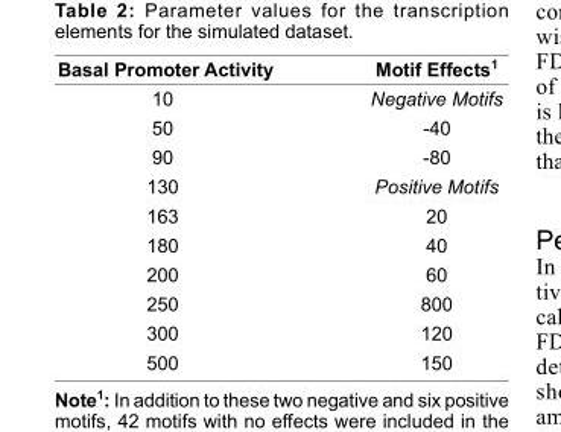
<table><thead><tr><td>Basal Promoter Activity</td><td>Motif Effects<sup>1</sup></td></tr></thead><tbody><tr><td>10</td><td>Negative Motifs</td></tr><tr><td>50</td><td>-40</td></tr><tr><td>90</td><td>-80</td></tr><tr><td>130</td><td>Positive Motifs</td></tr><tr><td>163</td><td>20</td></tr><tr><td>180</td><td>40</td></tr><tr><td>200</td><td>60</td></tr><tr><td>250</td><td>800</td></tr><tr><td>300</td><td>120</td></tr><tr><td>500</td><td>150</td></tr></tbody></table>